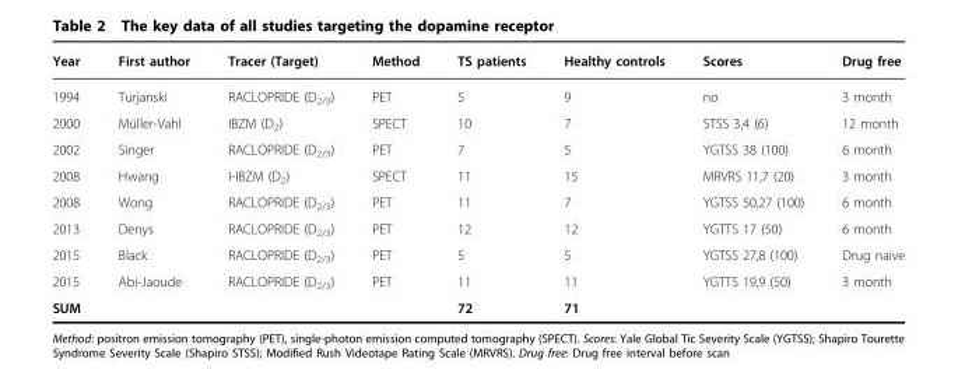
<table><thead><tr><td>Year</td><td>First author</td><td>Tracer (Target)</td><td>Method</td><td>TS patients</td><td>Healthy controls</td><td>Scores</td><td>Drug free</td></tr></thead><tbody><tr><td>1994</td><td>Turjanski</td><td>RACLOPRIDE (D<sub>2/3</sub>)</td><td>PET</td><td>5</td><td>9</td><td>no</td><td>3 month</td></tr><tr><td>2000</td><td>Müller-Vahl</td><td>IBZM (D<sub>2</sub>)</td><td>SPECT</td><td>10</td><td>7</td><td>STSS 3,4 (6)</td><td>12 month</td></tr><tr><td>2002</td><td>Singer</td><td>RACLOPRIDE (D<sub>2/3</sub>)</td><td>PET</td><td>7</td><td>5</td><td>YGTSS 38 (100)</td><td>6 month</td></tr><tr><td>2008</td><td>Hwang</td><td>I-IBZM (D<sub>2</sub>)</td><td>SPECT</td><td>11</td><td>15</td><td>MRVRS 11,7 (20)</td><td>3 month</td></tr><tr><td>2008</td><td>Wong</td><td>RACLOPRIDE (D<sub>2/3</sub>)</td><td>PET</td><td>11</td><td>7</td><td>YGTSS 50,27 (100)</td><td>6 month</td></tr><tr><td>2013</td><td>Denys</td><td>RACLOPRIDE (D<sub>2/3</sub>)</td><td>PET</td><td>12</td><td>12</td><td>YGTTS 17 (50)</td><td>6 month</td></tr><tr><td>2015</td><td>Black</td><td>RACLOPRIDE (D<sub>2/3</sub>)</td><td>PET</td><td>5</td><td>5</td><td>YGTSS 27,8 (100)</td><td>Drug naive</td></tr><tr><td>2015</td><td>Abi-Jaoude</td><td>RACLOPRIDE (D<sub>2/3</sub>)</td><td>PET</td><td>11</td><td>11</td><td>YGTTS 19,9 (50)</td><td>3 month</td></tr><tr><td>SUM</td><td></td><td></td><td></td><td>72</td><td>71</td><td></td><td></td></tr></tbody></table>